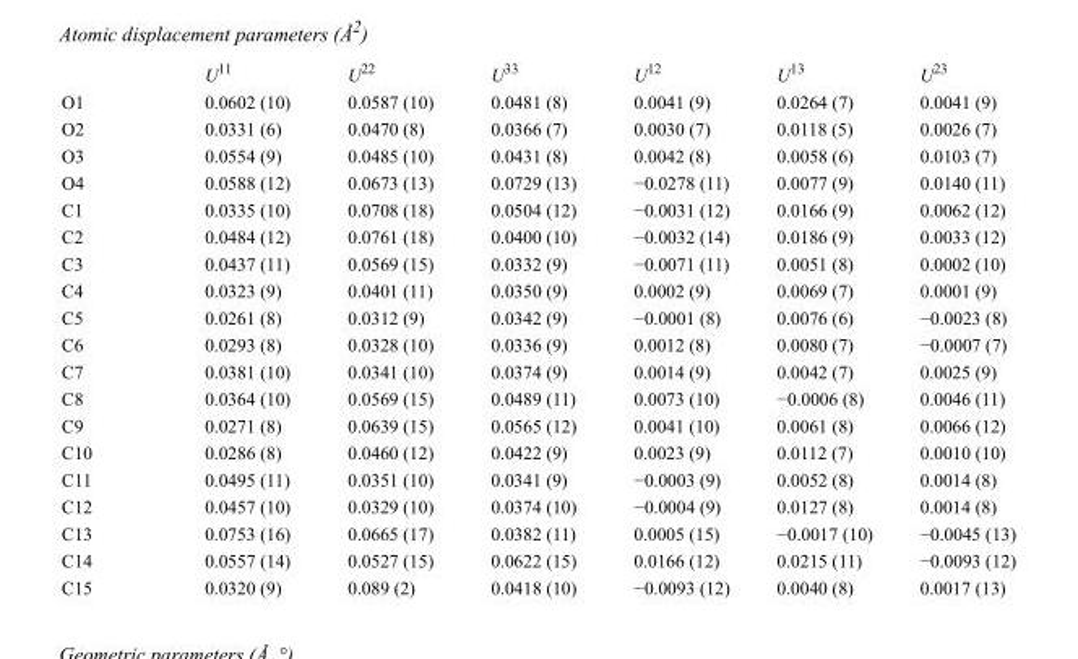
<table><thead><tr><td></td><td>U<sup>11</sup></td><td>U<sup>22</sup></td><td>U<sup>33</sup></td><td>U<sup>12</sup></td><td>U<sup>13</sup></td><td>U<sup>23</sup></td></tr></thead><tbody><tr><td>O1</td><td>0.0602 (10)</td><td>0.0587 (10)</td><td>0.0481 (8)</td><td>0.0041 (9)</td><td>0.0264 (7)</td><td>0.0041 (9)</td></tr><tr><td>O2</td><td>0.0331 (6)</td><td>0.0470 (8)</td><td>0.0366 (7)</td><td>0.0030 (7)</td><td>0.0118 (5)</td><td>0.0026 (7)</td></tr><tr><td>O3</td><td>0.0554 (9)</td><td>0.0485 (10)</td><td>0.0431 (8)</td><td>0.0042 (8)</td><td>0.0058 (6)</td><td>0.0103 (7)</td></tr><tr><td>O4</td><td>0.0588 (12)</td><td>0.0673 (13)</td><td>0.0729 (13)</td><td>−0.0278 (11)</td><td>0.0077 (9)</td><td>0.0140 (11)</td></tr><tr><td>C1</td><td>0.0335 (10)</td><td>0.0708 (18)</td><td>0.0504 (12)</td><td>−0.0031 (12)</td><td>0.0166 (9)</td><td>0.0062 (12)</td></tr><tr><td>C2</td><td>0.0484 (12)</td><td>0.0761 (18)</td><td>0.0400 (10)</td><td>−0.0032 (14)</td><td>0.0186 (9)</td><td>0.0033 (12)</td></tr><tr><td>C3</td><td>0.0437 (11)</td><td>0.0569 (15)</td><td>0.0332 (9)</td><td>−0.0071 (11)</td><td>0.0051 (8)</td><td>0.0002 (10)</td></tr><tr><td>C4</td><td>0.0323 (9)</td><td>0.0401 (11)</td><td>0.0350 (9)</td><td>0.0002 (9)</td><td>0.0069 (7)</td><td>0.0001 (9)</td></tr><tr><td>C5</td><td>0.0261 (8)</td><td>0.0312 (9)</td><td>0.0342 (9)</td><td>−0.0001 (8)</td><td>0.0076 (6)</td><td>−0.0023 (8)</td></tr><tr><td>C6</td><td>0.0293 (8)</td><td>0.0328 (10)</td><td>0.0336 (9)</td><td>0.0012 (8)</td><td>0.0080 (7)</td><td>−0.0007 (7)</td></tr><tr><td>C7</td><td>0.0381 (10)</td><td>0.0341 (10)</td><td>0.0374 (9)</td><td>0.0014 (9)</td><td>0.0042 (7)</td><td>0.0025 (9)</td></tr><tr><td>C8</td><td>0.0364 (10)</td><td>0.0569 (15)</td><td>0.0489 (11)</td><td>0.0073 (10)</td><td>−0.0006 (8)</td><td>0.0046 (11)</td></tr><tr><td>C9</td><td>0.0271 (8)</td><td>0.0639 (15)</td><td>0.0565 (12)</td><td>0.0041 (10)</td><td>0.0061 (8)</td><td>0.0066 (12)</td></tr><tr><td>C10</td><td>0.0286 (8)</td><td>0.0460 (12)</td><td>0.0422 (9)</td><td>0.0023 (9)</td><td>0.0112 (7)</td><td>0.0010 (10)</td></tr><tr><td>C11</td><td>0.0495 (11)</td><td>0.0351 (10)</td><td>0.0341 (9)</td><td>−0.0003 (9)</td><td>0.0052 (8)</td><td>0.0014 (8)</td></tr><tr><td>C12</td><td>0.0457 (10)</td><td>0.0329 (10)</td><td>0.0374 (10)</td><td>−0.0004 (9)</td><td>0.0127 (8)</td><td>0.0014 (8)</td></tr><tr><td>C13</td><td>0.0753 (16)</td><td>0.0665 (17)</td><td>0.0382 (11)</td><td>0.0005 (15)</td><td>−0.0017 (10)</td><td>−0.0045 (13)</td></tr><tr><td>C14</td><td>0.0557 (14)</td><td>0.0527 (15)</td><td>0.0622 (15)</td><td>0.0166 (12)</td><td>0.0215 (11)</td><td>−0.0093 (12)</td></tr><tr><td>C15</td><td>0.0320 (9)</td><td>0.089 (2)</td><td>0.0418 (10)</td><td>−0.0093 (12)</td><td>0.0040 (8)</td><td>0.0017 (13)</td></tr></tbody></table>